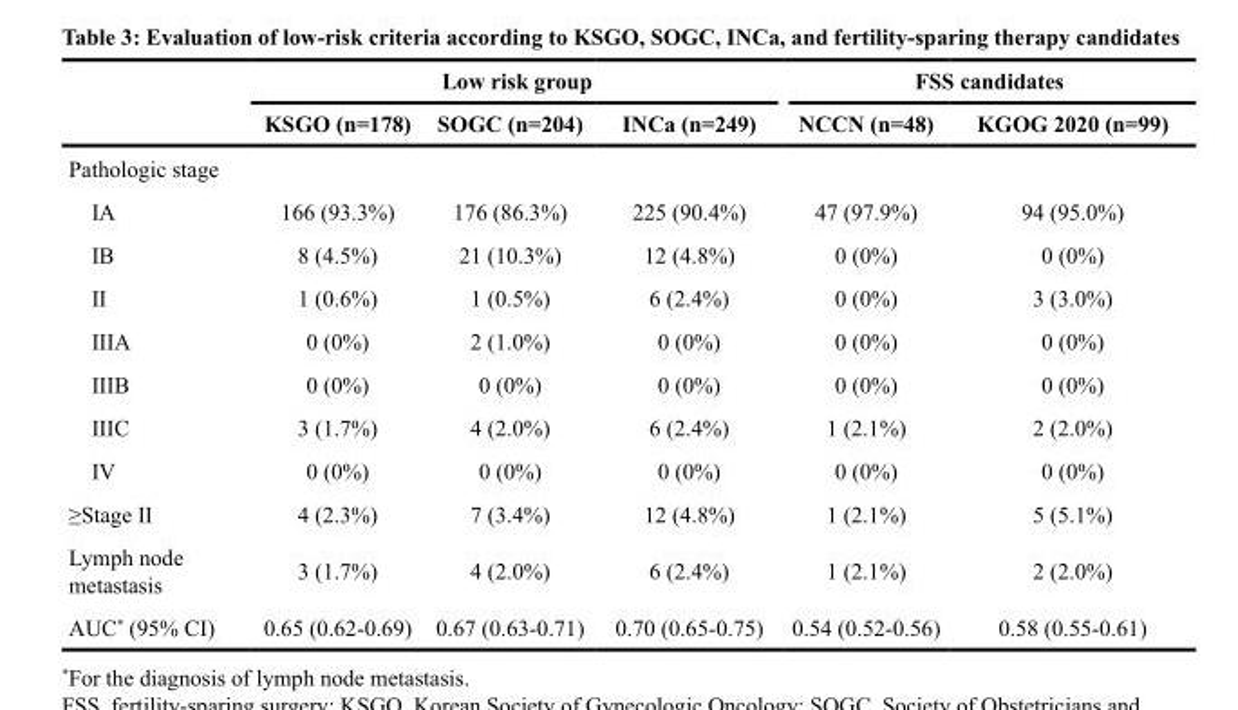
<table><thead><tr><td rowspan="2"></td><td colspan="3">Low risk group</td><td colspan="2">FSS candidates</td></tr><tr><td>KSGO (n=178)</td><td>SOGC (n=204)</td><td>INCa (n=249)</td><td>NCCN (n=48)</td><td>KGOG 2020 (n=99)</td></tr></thead><tbody><tr><td colspan="6">Pathologic stage</td></tr><tr><td>IA</td><td>166 (93.3%)</td><td>176 (86.3%)</td><td>225 (90.4%)</td><td>47 (97.9%)</td><td>94 (95.0%)</td></tr><tr><td>IB</td><td>8 (4.5%)</td><td>21 (10.3%)</td><td>12 (4.8%)</td><td>0 (0%)</td><td>0 (0%)</td></tr><tr><td>II</td><td>1 (0.6%)</td><td>1 (0.5%)</td><td>6 (2.4%)</td><td>0 (0%)</td><td>3 (3.0%)</td></tr><tr><td>IIIA</td><td>0 (0%)</td><td>2 (1.0%)</td><td>0 (0%)</td><td>0 (0%)</td><td>0 (0%)</td></tr><tr><td>IIIB</td><td>0 (0%)</td><td>0 (0%)</td><td>0 (0%)</td><td>0 (0%)</td><td>0 (0%)</td></tr><tr><td>IIIC</td><td>3 (1.7%)</td><td>4 (2.0%)</td><td>6 (2.4%)</td><td>1 (2.1%)</td><td>2 (2.0%)</td></tr><tr><td>IV</td><td>0 (0%)</td><td>0 (0%)</td><td>0 (0%)</td><td>0 (0%)</td><td>0 (0%)</td></tr><tr><td>≥Stage II</td><td>4 (2.3%)</td><td>7 (3.4%)</td><td>12 (4.8%)</td><td>1 (2.1%)</td><td>5 (5.1%)</td></tr><tr><td>Lymph node metastasis</td><td>3 (1.7%)</td><td>4 (2.0%)</td><td>6 (2.4%)</td><td>1 (2.1%)</td><td>2 (2.0%)</td></tr><tr><td>AUC* (95% CI)</td><td>0.65 (0.62-0.69)</td><td>0.67 (0.63-0.71)</td><td>0.70 (0.65-0.75)</td><td>0.54 (0.52-0.56)</td><td>0.58 (0.55-0.61)</td></tr></tbody></table>